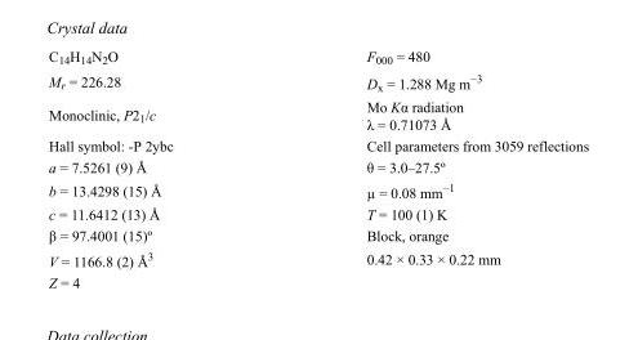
<table><tbody><tr><td>C<sub>14</sub>H<sub>14</sub>N<sub>2</sub>O</td><td>F<sub>000</sub> = 480</td></tr><tr><td>M<sub>r</sub> = 226.28</td><td>D<sub>x</sub> = 1.288 Mg m<sup>−3</sup></td></tr><tr><td>Monoclinic, P2<sub>1</sub>/c</td><td>Mo Kα radiation λ = 0.71073 Å</td></tr><tr><td>Hall symbol: -P 2ybc</td><td>Cell parameters from 3059 reflections</td></tr><tr><td>a = 7.5261 (9) Å</td><td>θ = 3.0–27.5º</td></tr><tr><td>b = 13.4298 (15) Å</td><td>µ = 0.08 mm<sup>−1</sup></td></tr><tr><td>c = 11.6412 (13) Å</td><td>T = 100 (1) K</td></tr><tr><td>β = 97.4001 (15)º</td><td>Block, orange</td></tr><tr><td>V = 1166.8 (2) Å<sup>3</sup></td><td>0.42 × 0.33 × 0.22 mm</td></tr><tr><td>Z = 4</td><td></td></tr></tbody></table>